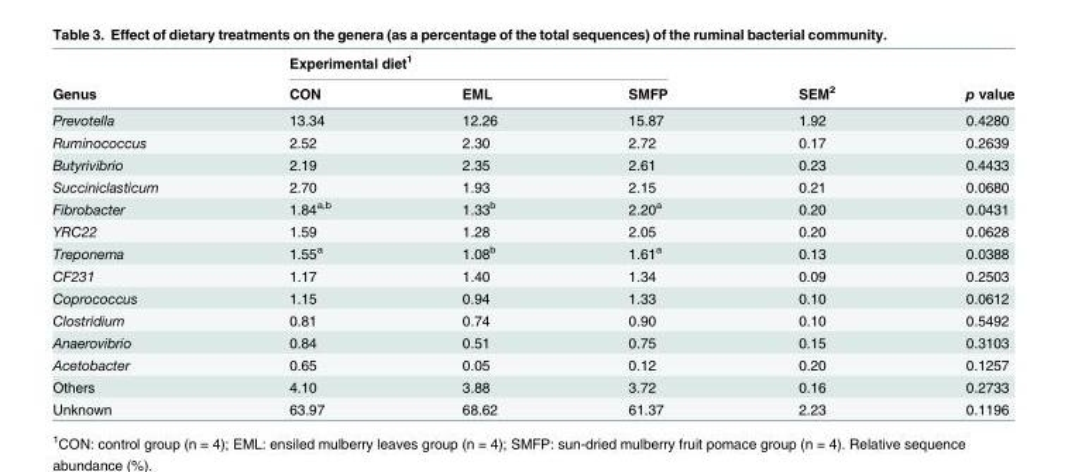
<table><thead><tr><td rowspan="2">Genus</td><td colspan="3">Experimental diet<sup>1</sup></td><td rowspan="2">SEM<sup>2</sup></td><td rowspan="2">p value</td></tr><tr><td>CON</td><td>EML</td><td>SMFP</td></tr></thead><tbody><tr><td>Prevotella</td><td>13.34</td><td>12.26</td><td>15.87</td><td>1.92</td><td>0.4280</td></tr><tr><td>Ruminococcus</td><td>2.52</td><td>2.30</td><td>2.72</td><td>0.17</td><td>0.2639</td></tr><tr><td>Butyrivibrio</td><td>2.19</td><td>2.35</td><td>2.61</td><td>0.23</td><td>0.4433</td></tr><tr><td>Succiniclasticum</td><td>2.70</td><td>1.93</td><td>2.15</td><td>0.21</td><td>0.0680</td></tr><tr><td>Fibrobacter</td><td>1.84<sup>a,b</sup></td><td>1.33<sup>b</sup></td><td>2.20<sup>a</sup></td><td>0.20</td><td>0.0431</td></tr><tr><td>YRC22</td><td>1.59</td><td>1.28</td><td>2.05</td><td>0.20</td><td>0.0628</td></tr><tr><td>Treponema</td><td>1.55<sup>a</sup></td><td>1.08<sup>b</sup></td><td>1.61<sup>a</sup></td><td>0.13</td><td>0.0388</td></tr><tr><td>CF231</td><td>1.17</td><td>1.40</td><td>1.34</td><td>0.09</td><td>0.2503</td></tr><tr><td>Coprococcus</td><td>1.15</td><td>0.94</td><td>1.33</td><td>0.10</td><td>0.0612</td></tr><tr><td>Clostridium</td><td>0.81</td><td>0.74</td><td>0.90</td><td>0.10</td><td>0.5492</td></tr><tr><td>Anaerovibrio</td><td>0.84</td><td>0.51</td><td>0.75</td><td>0.15</td><td>0.3103</td></tr><tr><td>Acetobacter</td><td>0.65</td><td>0.05</td><td>0.12</td><td>0.20</td><td>0.1257</td></tr><tr><td>Others</td><td>4.10</td><td>3.88</td><td>3.72</td><td>0.16</td><td>0.2733</td></tr><tr><td>Unknown</td><td>63.97</td><td>68.62</td><td>61.37</td><td>2.23</td><td>0.1196</td></tr></tbody></table>